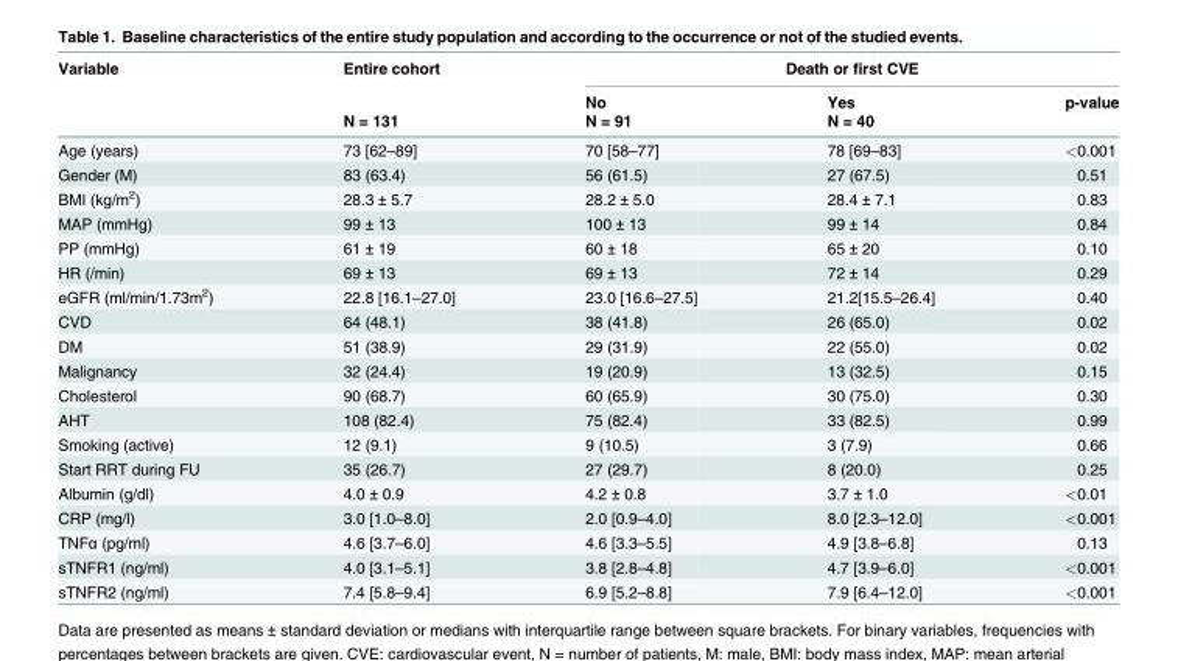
<table><thead><tr><td rowspan="3">Variable</td><td rowspan="3">Entire cohort N = 131</td><td colspan="3">Death or first CVE</td></tr><tr><td rowspan="2">No N = 91</td><td rowspan="2">Yes N = 40</td><td rowspan="2">p-value</td></tr><tr></tr></thead><tbody><tr><td>Age (years)</td><td>73 [62–89]</td><td>70 [58–77]</td><td>78 [69–83]</td><td>&lt;0.001</td></tr><tr><td>Gender (M)</td><td>83 (63.4)</td><td>56 (61.5)</td><td>27 (67.5)</td><td>0.51</td></tr><tr><td>BMI (kg/m<sup>2</sup>)</td><td>28.3 ± 5.7</td><td>28.2 ± 5.0</td><td>28.4 ± 7.1</td><td>0.83</td></tr><tr><td>MAP (mmHg)</td><td>99 ± 13</td><td>100 ± 13</td><td>99 ± 14</td><td>0.84</td></tr><tr><td>PP (mmHg)</td><td>61 ± 19</td><td>60 ± 18</td><td>65 ± 20</td><td>0.10</td></tr><tr><td>HR (/min)</td><td>69 ± 13</td><td>69 ± 13</td><td>72 ± 14</td><td>0.29</td></tr><tr><td>eGFR (ml/min/1.73m<sup>2</sup>)</td><td>22.8 [16.1–27.0]</td><td>23.0 [16.6–27.5]</td><td>21.2[15.5–26.4]</td><td>0.40</td></tr><tr><td>CVD</td><td>64 (48.1)</td><td>38 (41.8)</td><td>26 (65.0)</td><td>0.02</td></tr><tr><td>DM</td><td>51 (38.9)</td><td>29 (31.9)</td><td>22 (55.0)</td><td>0.02</td></tr><tr><td>Malignancy</td><td>32 (24.4)</td><td>19 (20.9)</td><td>13 (32.5)</td><td>0.15</td></tr><tr><td>Cholesterol</td><td>90 (68.7)</td><td>60 (65.9)</td><td>30 (75.0)</td><td>0.30</td></tr><tr><td>AHT</td><td>108 (82.4)</td><td>75 (82.4)</td><td>33 (82.5)</td><td>0.99</td></tr><tr><td>Smoking (active)</td><td>12 (9.1)</td><td>9 (10.5)</td><td>3 (7.9)</td><td>0.66</td></tr><tr><td>Start RRT during FU</td><td>35 (26.7)</td><td>27 (29.7)</td><td>8 (20.0)</td><td>0.25</td></tr><tr><td>Albumin (g/dl)</td><td>4.0 ± 0.9</td><td>4.2 ± 0.8</td><td>3.7 ± 1.0</td><td>&lt;0.01</td></tr><tr><td>CRP (mg/l)</td><td>3.0 [1.0–8.0]</td><td>2.0 [0.9–4.0]</td><td>8.0 [2.3–12.0]</td><td>&lt;0.001</td></tr><tr><td>TNFα (pg/ml)</td><td>4.6 [3.7–6.0]</td><td>4.6 [3.3–5.5]</td><td>4.9 [3.8–6.8]</td><td>0.13</td></tr><tr><td>sTNFR1 (ng/ml)</td><td>4.0 [3.1–5.1]</td><td>3.8 [2.8–4.8]</td><td>4.7 [3.9–6.0]</td><td>&lt;0.001</td></tr><tr><td>sTNFR2 (ng/ml)</td><td>7.4 [5.8–9.4]</td><td>6.9 [5.2–8.8]</td><td>7.9 [6.4–12.0]</td><td>&lt;0.001</td></tr></tbody></table>